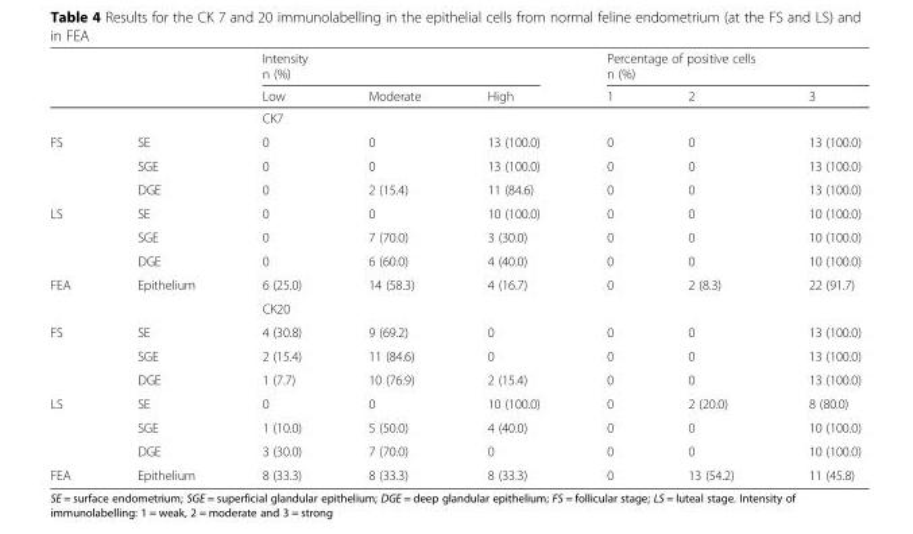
<table><thead><tr><td rowspan="3"></td><td rowspan="3"></td><td rowspan="2" colspan="3">Intensity n (%)</td><td rowspan="2" colspan="3">Percentage of positive cells n (%)</td></tr><tr></tr><tr><td>Low</td><td>Moderate</td><td>High</td><td>1</td><td>2</td><td>3</td></tr></thead><tbody><tr><td></td><td></td><td colspan="6">CK7</td></tr><tr><td rowspan="3">FS</td><td>SE</td><td>0</td><td>0</td><td>13 (100.0)</td><td>0</td><td>0</td><td>13 (100.0)</td></tr><tr><td>SGE</td><td>0</td><td>0</td><td>13 (100.0)</td><td>0</td><td>0</td><td>13 (100.0)</td></tr><tr><td>DGE</td><td>0</td><td>2 (15.4)</td><td>11 (84.6)</td><td>0</td><td>0</td><td>13 (100.0)</td></tr><tr><td rowspan="3">LS</td><td>SE</td><td>0</td><td>0</td><td>10 (100.0)</td><td>0</td><td>0</td><td>10 (100.0)</td></tr><tr><td>SGE</td><td>0</td><td>7 (70.0)</td><td>3 (30.0)</td><td>0</td><td>0</td><td>10 (100.0)</td></tr><tr><td>DGE</td><td>0</td><td>6 (60.0)</td><td>4 (40.0)</td><td>0</td><td>0</td><td>10 (100.0)</td></tr><tr><td rowspan="2">FEA</td><td>Epithelium</td><td>6 (25.0)</td><td>14 (58.3)</td><td>4 (16.7)</td><td>0</td><td>2 (8.3)</td><td>22 (91.7)</td></tr><tr><td></td><td colspan="6">CK20</td></tr><tr><td rowspan="3">FS</td><td>SE</td><td>4 (30.8)</td><td>9 (69.2)</td><td>0</td><td>0</td><td>0</td><td>13 (100.0)</td></tr><tr><td>SGE</td><td>2 (15.4)</td><td>11 (84.6)</td><td>0</td><td>0</td><td>0</td><td>13 (100.0)</td></tr><tr><td>DGE</td><td>1 (7.7)</td><td>10 (76.9)</td><td>2 (15.4)</td><td>0</td><td>0</td><td>13 (100.0)</td></tr><tr><td rowspan="3">LS</td><td>SE</td><td>0</td><td>0</td><td>10 (100.0)</td><td>0</td><td>2 (20.0)</td><td>8 (80.0)</td></tr><tr><td>SGE</td><td>1 (10.0)</td><td>5 (50.0)</td><td>4 (40.0)</td><td>0</td><td>0</td><td>10 (100.0)</td></tr><tr><td>DGE</td><td>3 (30.0)</td><td>7 (70.0)</td><td>0</td><td>0</td><td>0</td><td>10 (100.0)</td></tr><tr><td>FEA</td><td>Epithelium</td><td>8 (33.3)</td><td>8 (33.3)</td><td>8 (33.3)</td><td>0</td><td>13 (54.2)</td><td>11 (45.8)</td></tr></tbody></table>